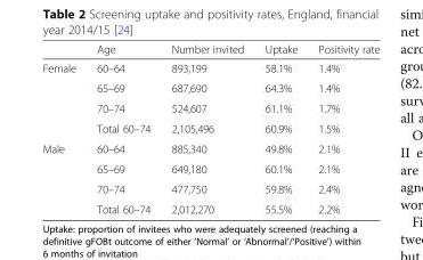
<table><thead><tr><td></td><td>Age</td><td>Number invited</td><td>Uptake</td><td>Positivity rate</td></tr></thead><tbody><tr><td rowspan="4">Female</td><td>60–64</td><td>893,199</td><td>58.1%</td><td>1.4%</td></tr><tr><td>65–69</td><td>687,690</td><td>64.3%</td><td>1.4%</td></tr><tr><td>70–74</td><td>524,607</td><td>61.1%</td><td>1.7%</td></tr><tr><td>Total 60–74</td><td>2,105,496</td><td>60.9%</td><td>1.5%</td></tr><tr><td rowspan="4">Male</td><td>60–64</td><td>885,340</td><td>49.8%</td><td>2.1%</td></tr><tr><td>65–69</td><td>649,180</td><td>60.1%</td><td>2.1%</td></tr><tr><td>70–74</td><td>477,750</td><td>59.8%</td><td>2.4%</td></tr><tr><td>Total 60–74</td><td>2,012,270</td><td>55.5%</td><td>2.2%</td></tr></tbody></table>